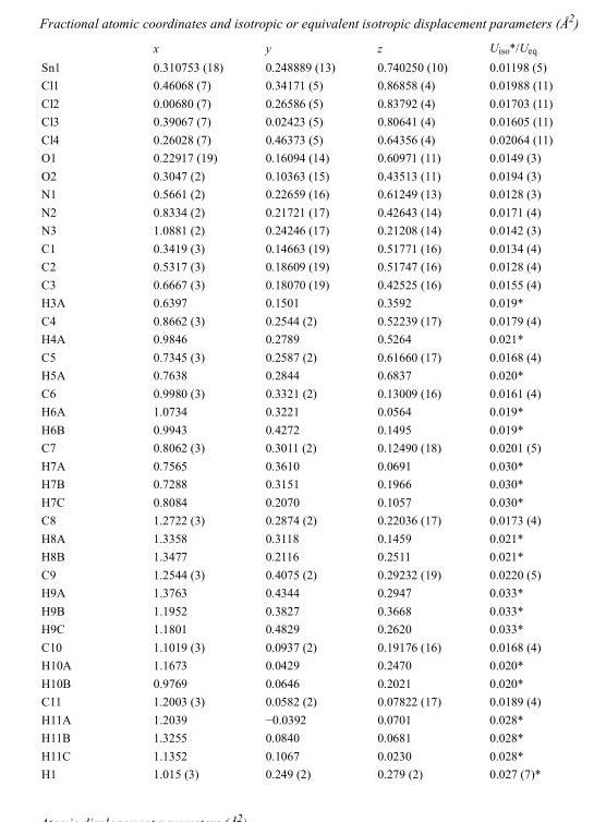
<table><thead><tr><td></td><td>x</td><td>y</td><td>z</td><td>U<sub>iso</sub>*/U<sub>eq</sub></td></tr></thead><tbody><tr><td>Sn1</td><td>0.310753 (18)</td><td>0.248889 (13)</td><td>0.740250 (10)</td><td>0.01198 (5)</td></tr><tr><td>Cl1</td><td>0.46068 (7)</td><td>0.34171 (5)</td><td>0.86858 (4)</td><td>0.01988 (11)</td></tr><tr><td>Cl2</td><td>0.00680 (7)</td><td>0.26586 (5)</td><td>0.83792 (4)</td><td>0.01703 (11)</td></tr><tr><td>Cl3</td><td>0.39067 (7)</td><td>0.02423 (5)</td><td>0.80641 (4)</td><td>0.01605 (11)</td></tr><tr><td>Cl4</td><td>0.26028 (7)</td><td>0.46373 (5)</td><td>0.64356 (4)</td><td>0.02064 (11)</td></tr><tr><td>O1</td><td>0.22917 (19)</td><td>0.16094 (14)</td><td>0.60971 (11)</td><td>0.0149 (3)</td></tr><tr><td>O2</td><td>0.3047 (2)</td><td>0.10363 (15)</td><td>0.43513 (11)</td><td>0.0194 (3)</td></tr><tr><td>N1</td><td>0.5661 (2)</td><td>0.22659 (16)</td><td>0.61249 (13)</td><td>0.0128 (3)</td></tr><tr><td>N2</td><td>0.8334 (2)</td><td>0.21721 (17)</td><td>0.42643 (14)</td><td>0.0171 (4)</td></tr><tr><td>N3</td><td>1.0881 (2)</td><td>0.24246 (17)</td><td>0.21208 (14)</td><td>0.0142 (3)</td></tr><tr><td>C1</td><td>0.3419 (3)</td><td>0.14663 (19)</td><td>0.51771 (16)</td><td>0.0134 (4)</td></tr><tr><td>C2</td><td>0.5317 (3)</td><td>0.18609 (19)</td><td>0.51747 (16)</td><td>0.0128 (4)</td></tr><tr><td>C3</td><td>0.6667 (3)</td><td>0.18070 (19)</td><td>0.42525 (16)</td><td>0.0155 (4)</td></tr><tr><td>H3A</td><td>0.6397</td><td>0.1501</td><td>0.3592</td><td>0.019*</td></tr><tr><td>C4</td><td>0.8662 (3)</td><td>0.2544 (2)</td><td>0.52239 (17)</td><td>0.0179 (4)</td></tr><tr><td>H4A</td><td>0.9846</td><td>0.2789</td><td>0.5264</td><td>0.021*</td></tr><tr><td>C5</td><td>0.7345 (3)</td><td>0.2587 (2)</td><td>0.61660 (17)</td><td>0.0168 (4)</td></tr><tr><td>H5A</td><td>0.7638</td><td>0.2844</td><td>0.6837</td><td>0.020*</td></tr><tr><td>C6</td><td>0.9980 (3)</td><td>0.3321 (2)</td><td>0.13009 (16)</td><td>0.0161 (4)</td></tr><tr><td>H6A</td><td>1.0734</td><td>0.3221</td><td>0.0564</td><td>0.019*</td></tr><tr><td>H6B</td><td>0.9943</td><td>0.4272</td><td>0.1495</td><td>0.019*</td></tr><tr><td>C7</td><td>0.8062 (3)</td><td>0.3011 (2)</td><td>0.12490 (18)</td><td>0.0201 (5)</td></tr><tr><td>H7A</td><td>0.7565</td><td>0.3610</td><td>0.0691</td><td>0.030*</td></tr><tr><td>H7B</td><td>0.7288</td><td>0.3151</td><td>0.1966</td><td>0.030*</td></tr><tr><td>H7C</td><td>0.8084</td><td>0.2070</td><td>0.1057</td><td>0.030*</td></tr><tr><td>C8</td><td>1.2722 (3)</td><td>0.2874 (2)</td><td>0.22036 (17)</td><td>0.0173 (4)</td></tr><tr><td>H8A</td><td>1.3358</td><td>0.3118</td><td>0.1459</td><td>0.021*</td></tr><tr><td>H8B</td><td>1.3477</td><td>0.2116</td><td>0.2511</td><td>0.021*</td></tr><tr><td>C9</td><td>1.2544 (3)</td><td>0.4075 (2)</td><td>0.29232 (19)</td><td>0.0220 (5)</td></tr><tr><td>H9A</td><td>1.3763</td><td>0.4344</td><td>0.2947</td><td>0.033*</td></tr><tr><td>H9B</td><td>1.1952</td><td>0.3827</td><td>0.3668</td><td>0.033*</td></tr><tr><td>H9C</td><td>1.1801</td><td>0.4829</td><td>0.2620</td><td>0.033*</td></tr><tr><td>C10</td><td>1.1019 (3)</td><td>0.0937 (2)</td><td>0.19176 (16)</td><td>0.0168 (4)</td></tr><tr><td>H10A</td><td>1.1673</td><td>0.0429</td><td>0.2470</td><td>0.020*</td></tr><tr><td>H10B</td><td>0.9769</td><td>0.0646</td><td>0.2021</td><td>0.020*</td></tr><tr><td>C11</td><td>1.2003 (3)</td><td>0.0582 (2)</td><td>0.07822 (17)</td><td>0.0189 (4)</td></tr><tr><td>H11A</td><td>1.2039</td><td>−0.0392</td><td>0.0701</td><td>0.028*</td></tr><tr><td>H11B</td><td>1.3255</td><td>0.0840</td><td>0.0681</td><td>0.028*</td></tr><tr><td>H11C</td><td>1.1352</td><td>0.1067</td><td>0.0230</td><td>0.028*</td></tr><tr><td>H1</td><td>1.015 (3)</td><td>0.249 (2)</td><td>0.279 (2)</td><td>0.027 (7)*</td></tr></tbody></table>